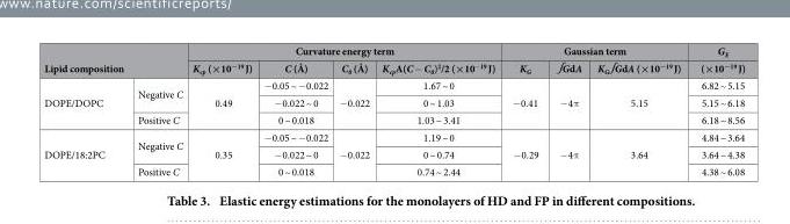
<table><thead><tr><td></td><td></td><td colspan="4">Curvature energy term</td><td colspan="3">Gaussian term</td><td rowspan="2">G<sub>E</sub> (×10<sup>−19</sup> J)</td></tr><tr><td colspan="2">Lipid composition</td><td>K<sub>cp</sub> (×10<sup>−19</sup> J)</td><td>C (Å)</td><td>C<sub>0</sub> (Å)</td><td>K<sub>cp</sub>A(C − C<sub>0</sub>)<sup>2</sup>/2 (×10<sup>−19</sup> J)</td><td>K<sub>G</sub></td><td>∫GdA</td><td>K<sub>G</sub>∫GdA (×10<sup>−19</sup> J)</td></tr></thead><tbody><tr><td rowspan="3">DOPE/DOPC</td><td rowspan="2">Negative C</td><td rowspan="3">0.49</td><td>− 0.05 ~ − 0.022</td><td rowspan="3">− 0.022</td><td>1.67 ~ 0</td><td rowspan="3">− 0.41</td><td rowspan="3">− 4π</td><td rowspan="3">5.15</td><td>6.82 ~ 5.15</td></tr><tr><td>− 0.022 ~ 0</td><td>0 ~ 1.03</td><td>5.15 ~ 6.18</td></tr><tr><td>Positive C</td><td>0 ~ 0.018</td><td>1.03 ~ 3.41</td><td>6.18 ~ 8.56</td></tr><tr><td rowspan="3">DOPE/18:2PC</td><td rowspan="2">Negative C</td><td rowspan="3">0.35</td><td>− 0.05 ~ − 0.022</td><td rowspan="3">− 0.022</td><td>1.19 ~ 0</td><td rowspan="3">− 0.29</td><td rowspan="3">− 4π</td><td rowspan="3">3.64</td><td>4.84 ~ 3.64</td></tr><tr><td>− 0.022 ~ 0</td><td>0 ~ 0.74</td><td>3.64 ~ 4.38</td></tr><tr><td>Positive C</td><td>0 ~ 0.018</td><td>0.74 ~ 2.44</td><td>4.38 ~ 6.08</td></tr></tbody></table>